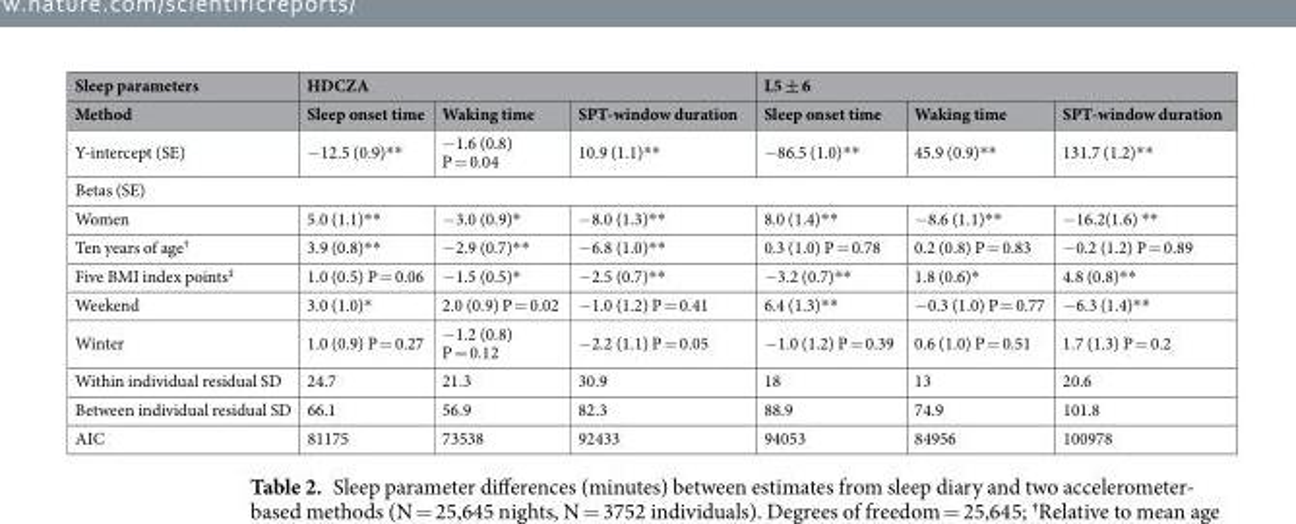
<table><thead><tr><td rowspan="2">Sleep parameters Method</td><td colspan="3">HDCZA</td><td colspan="3">L5 ± 6</td></tr><tr><td>Sleep onset time</td><td>Waking time</td><td>SPT-window duration</td><td>Sleep onset time</td><td>Waking time</td><td>SPT-window duration</td></tr></thead><tbody><tr><td>Y-intercept (SE)</td><td>−12.5 (0.9)**</td><td>−1.6 (0.8) P = 0.04</td><td>10.9 (1.1)**</td><td>−86.5 (1.0)**</td><td>45.9 (0.9)**</td><td>131.7 (1.2)**</td></tr><tr><td colspan="7">Betas (SE)</td></tr><tr><td>Women</td><td>5.0 (1.1)**</td><td>−3.0 (0.9)*</td><td>−8.0 (1.3)**</td><td>8.0 (1.4)**</td><td>−8.6 (1.1)**</td><td>−16.2(1.6) **</td></tr><tr><td>Ten years of age<sup>†</sup></td><td>3.9 (0.8)**</td><td>−2.9 (0.7)**</td><td>−6.8 (1.0)**</td><td>0.3 (1.0) P = 0.78</td><td>0.2 (0.8) P = 0.83</td><td>−0.2 (1.2) P = 0.89</td></tr><tr><td>Five BMI index points<sup>‡</sup></td><td>1.0 (0.5) P = 0.06</td><td>−1.5 (0.5)*</td><td>−2.5 (0.7)**</td><td>−3.2 (0.7)**</td><td>1.8 (0.6)*</td><td>4.8 (0.8)**</td></tr><tr><td>Weekend</td><td>3.0 (1.0)*</td><td>2.0 (0.9) P = 0.02</td><td>−1.0 (1.2) P = 0.41</td><td>6.4 (1.3)**</td><td>−0.3 (1.0) P = 0.77</td><td>−6.3 (1.4)**</td></tr><tr><td>Winter</td><td>1.0 (0.9) P = 0.27</td><td>−1.2 (0.8) P = 0.12</td><td>−2.2 (1.1) P = 0.05</td><td>−1.0 (1.2) P = 0.39</td><td>0.6 (1.0) P = 0.51</td><td>1.7 (1.3) P = 0.2</td></tr><tr><td>Within individual residual SD</td><td>24.7</td><td>21.3</td><td>30.9</td><td>18</td><td>13</td><td>20.6</td></tr><tr><td>Between individual residual SD</td><td>66.1</td><td>56.9</td><td>82.3</td><td>88.9</td><td>74.9</td><td>101.8</td></tr><tr><td>AIC</td><td>81175</td><td>73538</td><td>92433</td><td>94053</td><td>84956</td><td>100978</td></tr></tbody></table>